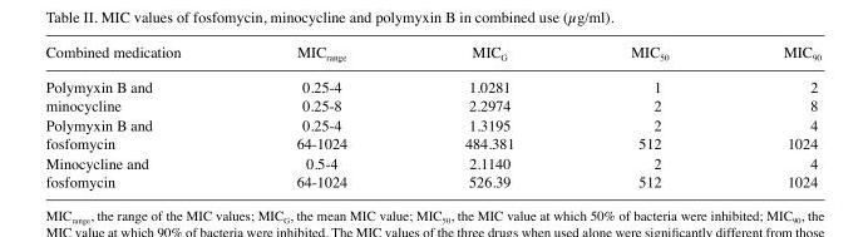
<table><thead><tr><td>Combined medication</td><td>MIC<sub>range</sub></td><td>MIC<sub>G</sub></td><td>MIC<sub>50</sub></td><td>MIC<sub>90</sub></td></tr></thead><tbody><tr><td rowspan="2">Polymyxin B and minocycline</td><td>0.25-4</td><td>1.0281</td><td>1</td><td>2</td></tr><tr><td>0.25-8</td><td>2.2974</td><td>2</td><td>8</td></tr><tr><td rowspan="2">Polymyxin B and fosfomycin</td><td>0.25-4</td><td>1.3195</td><td>2</td><td>4</td></tr><tr><td>64-1024</td><td>484.381</td><td>512</td><td>1024</td></tr><tr><td rowspan="2">Minocycline and fosfomycin</td><td>0.5-4</td><td>2.1140</td><td>2</td><td>4</td></tr><tr><td>64-1024</td><td>526.39</td><td>512</td><td>1024</td></tr></tbody></table>